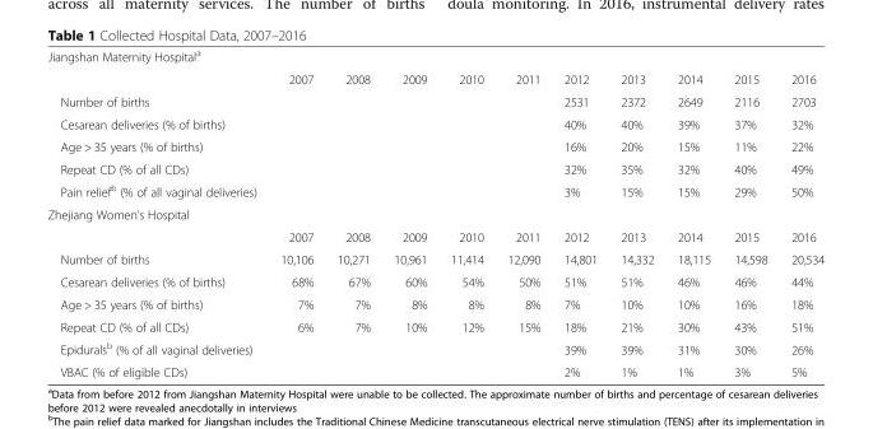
<table><tbody><tr><td colspan="11">Jiangshan Maternity Hospital<sup>a</sup></td></tr><tr><td></td><td>2007</td><td>2008</td><td>2009</td><td>2010</td><td>2011</td><td>2012</td><td>2013</td><td>2014</td><td>2015</td><td>2016</td></tr><tr><td>Number of births</td><td></td><td></td><td></td><td></td><td></td><td>2531</td><td>2372</td><td>2649</td><td>2116</td><td>2703</td></tr><tr><td>Cesarean deliveries (% of births)</td><td></td><td></td><td></td><td></td><td></td><td>40%</td><td>40%</td><td>39%</td><td>37%</td><td>32%</td></tr><tr><td>Age &gt; 35 years (% of births)</td><td></td><td></td><td></td><td></td><td></td><td>16%</td><td>20%</td><td>15%</td><td>11%</td><td>22%</td></tr><tr><td>Repeat CD (% of all CDs)</td><td></td><td></td><td></td><td></td><td></td><td>32%</td><td>35%</td><td>32%</td><td>40%</td><td>49%</td></tr><tr><td>Pain relief<sup>b</sup> (% of all vaginal deliveries)</td><td></td><td></td><td></td><td></td><td></td><td>3%</td><td>15%</td><td>15%</td><td>29%</td><td>50%</td></tr><tr><td colspan="11">Zhejiang Women’s Hospital</td></tr><tr><td></td><td>2007</td><td>2008</td><td>2009</td><td>2010</td><td>2011</td><td>2012</td><td>2013</td><td>2014</td><td>2015</td><td>2016</td></tr><tr><td>Number of births</td><td>10,106</td><td>10,271</td><td>10,961</td><td>11,414</td><td>12,090</td><td>14,801</td><td>14,332</td><td>18,115</td><td>14,598</td><td>20,534</td></tr><tr><td>Cesarean deliveries (% of births)</td><td>68%</td><td>67%</td><td>60%</td><td>54%</td><td>50%</td><td>51%</td><td>51%</td><td>46%</td><td>46%</td><td>44%</td></tr><tr><td>Age &gt; 35 years (% of births)</td><td>7%</td><td>7%</td><td>8%</td><td>8%</td><td>8%</td><td>7%</td><td>10%</td><td>10%</td><td>16%</td><td>18%</td></tr><tr><td>Repeat CD (% of all CDs)</td><td>6%</td><td>7%</td><td>10%</td><td>12%</td><td>15%</td><td>18%</td><td>21%</td><td>30%</td><td>43%</td><td>51%</td></tr><tr><td>Epidurals<sup>b</sup> (% of all vaginal deliveries)</td><td></td><td></td><td></td><td></td><td></td><td>39%</td><td>39%</td><td>31%</td><td>30%</td><td>26%</td></tr><tr><td>VBAC (% of eligible CDs)</td><td></td><td></td><td></td><td></td><td></td><td>2%</td><td>1%</td><td>1%</td><td>3%</td><td>5%</td></tr></tbody></table>